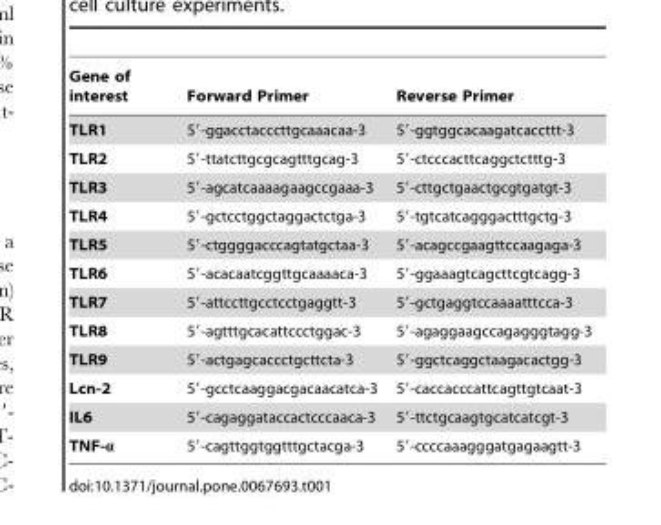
<table><thead><tr><td>Gene of interest</td><td>Forward Primer</td><td>Reverse Primer</td></tr></thead><tbody><tr><td>TLR1</td><td>5′-ggacctacccttgcaaacaa-3</td><td>5′-ggtggcacaagatcaccttt-3</td></tr><tr><td>TLR2</td><td>5′-ttatcttgcgcagtttgcag-3</td><td>5′-ctcccacttcaggctctttg-3</td></tr><tr><td>TLR3</td><td>5′-agcatcaaaagaagccgaaa-3</td><td>5′-cttgctgaactgcgtgatgt-3</td></tr><tr><td>TLR4</td><td>5′-gctcctggctaggactctga-3</td><td>5′-tgtcatcagggactttgctg-3</td></tr><tr><td>TLR5</td><td>5′-ctggggacccagtatgctaa-3</td><td>5′-acagccgaagttccaagaga-3</td></tr><tr><td>TLR6</td><td>5′-acacaatcggttgcaaaaca-3</td><td>5′-ggaaagtcagcttcgtcagg-3</td></tr><tr><td>TLR7</td><td>5′-attccttgcctcctgaggtt-3</td><td>5′-gctgaggtccaaaatttcca-3</td></tr><tr><td>TLR8</td><td>5′-agtttgcacattccctggac-3</td><td>5′-agaggaagccagagggtagg-3</td></tr><tr><td>TLR9</td><td>5′-actgagcaccctgcttcta-3</td><td>5′-ggctcaggctaagacactgg-3</td></tr><tr><td>Lcn-2</td><td>5′-gcctcaaggacgacaacatca-3</td><td>5′-caccacccattcagttgtcaat-3</td></tr><tr><td>IL6</td><td>5′-cagaggataccactcccaaca-3</td><td>5′-ttctgcaagtgcatcatcgt-3</td></tr><tr><td>TNF-α</td><td>5′-cagttggtggtttgctacga-3</td><td>5′-ccccaaagggatgagaagtt-3</td></tr></tbody></table>